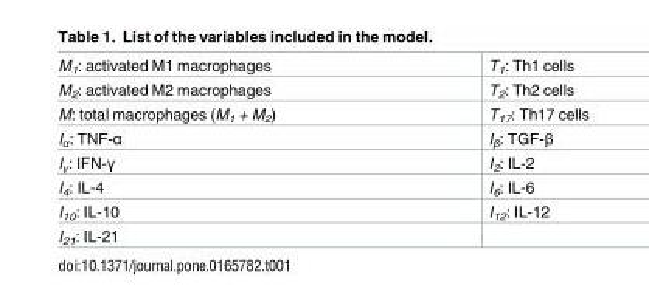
<table><tbody><tr><td>M<sub>1</sub>: activated M1 macrophages</td><td>T<sub>1</sub>: Th1 cells</td></tr><tr><td>M<sub>2</sub>: activated M2 macrophages</td><td>T<sub>2</sub>: Th2 cells</td></tr><tr><td>M: total macrophages (M<sub>1</sub> + M<sub>2</sub>)</td><td>T<sub>17</sub>: Th17 cells</td></tr><tr><td>I<sub>α</sub>: TNF-α</td><td>I<sub>β</sub>: TGF-β</td></tr><tr><td>I<sub>γ</sub>: IFN-γ</td><td>I<sub>2</sub>: IL-2</td></tr><tr><td>I<sub>4</sub>: IL-4</td><td>I<sub>6</sub>: IL-6</td></tr><tr><td>I<sub>10</sub>: IL-10</td><td>I<sub>12</sub>: IL-12</td></tr><tr><td>I<sub>21</sub>: IL-21</td><td></td></tr></tbody></table>